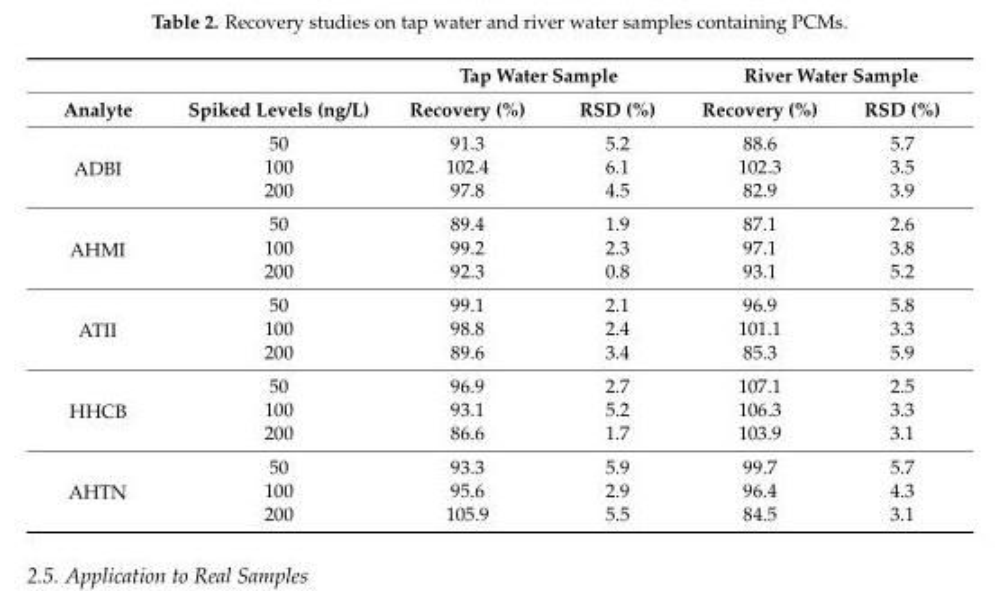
<table><thead><tr><td rowspan="2">Analyte</td><td rowspan="2">Spiked Levels (ng/L)</td><td colspan="2">Tap Water Sample</td><td colspan="2">River Water Sample</td></tr><tr><td>Recovery (%)</td><td>RSD (%)</td><td>Recovery (%)</td><td>RSD (%)</td></tr></thead><tbody><tr><td rowspan="3">ADBI</td><td>50</td><td>91.3</td><td>5.2</td><td>88.6</td><td>5.7</td></tr><tr><td>100</td><td>102.4</td><td>6.1</td><td>102.3</td><td>3.5</td></tr><tr><td>200</td><td>97.8</td><td>4.5</td><td>82.9</td><td>3.9</td></tr><tr><td rowspan="3">AHMI</td><td>50</td><td>89.4</td><td>1.9</td><td>87.1</td><td>2.6</td></tr><tr><td>100</td><td>99.2</td><td>2.3</td><td>97.1</td><td>3.8</td></tr><tr><td>200</td><td>92.3</td><td>0.8</td><td>93.1</td><td>5.2</td></tr><tr><td rowspan="3">ATII</td><td>50</td><td>99.1</td><td>2.1</td><td>96.9</td><td>5.8</td></tr><tr><td>100</td><td>98.8</td><td>2.4</td><td>101.1</td><td>3.3</td></tr><tr><td>200</td><td>89.6</td><td>3.4</td><td>85.3</td><td>5.9</td></tr><tr><td rowspan="3">HHCB</td><td>50</td><td>96.9</td><td>2.7</td><td>107.1</td><td>2.5</td></tr><tr><td>100</td><td>93.1</td><td>5.2</td><td>106.3</td><td>3.3</td></tr><tr><td>200</td><td>86.6</td><td>1.7</td><td>103.9</td><td>3.1</td></tr><tr><td rowspan="3">AHTN</td><td>50</td><td>93.3</td><td>5.9</td><td>99.7</td><td>5.7</td></tr><tr><td>100</td><td>95.6</td><td>2.9</td><td>96.4</td><td>4.3</td></tr><tr><td>200</td><td>105.9</td><td>5.5</td><td>84.5</td><td>3.1</td></tr></tbody></table>